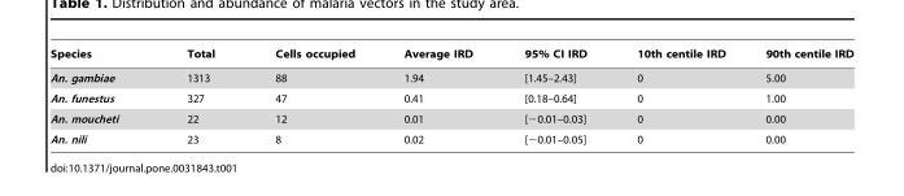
<table><thead><tr><td>Species</td><td>Total</td><td>Cells occupied</td><td>Average IRD</td><td>95% CI IRD</td><td>10th centile IRD</td><td>90th centile IRD</td></tr></thead><tbody><tr><td>An. gambiae</td><td>1313</td><td>88</td><td>1.94</td><td>[1.45–2.43]</td><td>0</td><td>5.00</td></tr><tr><td>An. funestus</td><td>327</td><td>47</td><td>0.41</td><td>[0.18–0.64]</td><td>0</td><td>1.00</td></tr><tr><td>An. moucheti</td><td>22</td><td>12</td><td>0.01</td><td>[−0.01–0.03]</td><td>0</td><td>0.00</td></tr><tr><td>An. nili</td><td>23</td><td>8</td><td>0.02</td><td>[−0.01–0.05]</td><td>0</td><td>0.00</td></tr></tbody></table>